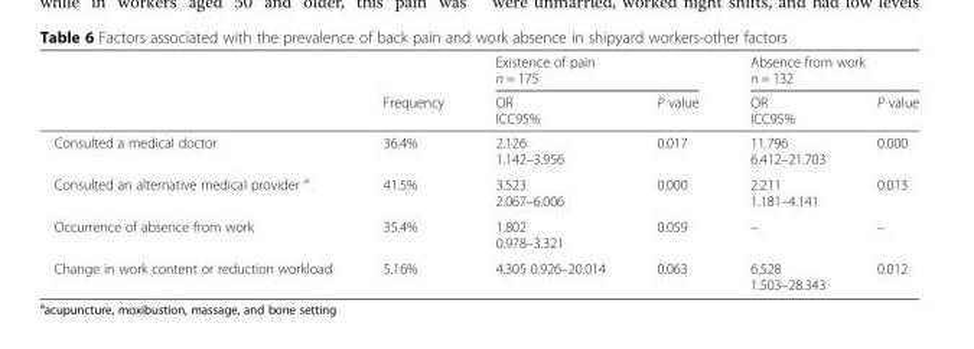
<table><thead><tr><td rowspan="2"></td><td rowspan="2">Frequency</td><td colspan="2">Existence of pain n = 175</td><td colspan="2">Absence from work n = 132</td></tr><tr><td>OR ICC95%</td><td>P value</td><td>OR ICC95%</td><td>P value</td></tr></thead><tbody><tr><td>Consulted a medical doctor</td><td>36.4%</td><td>2.126 1.142–3.956</td><td>0.017</td><td>11.796 6.412–21.703</td><td>0.000</td></tr><tr><td>Consulted an alternative medical provider a</td><td>41.5%</td><td>3.523 2.067–6.006</td><td>0.000</td><td>2.211 1.181–4.141</td><td>0.013</td></tr><tr><td>Occurrence of absence from work</td><td>35.4%</td><td>1.802 0.978–3.321</td><td>0.059</td><td>–</td><td>–</td></tr><tr><td>Change in work content or reduction workload</td><td>5.16%</td><td>4.305 0.926–20.014</td><td>0.063</td><td>6.528 1.503–28.343</td><td>0.012</td></tr></tbody></table>